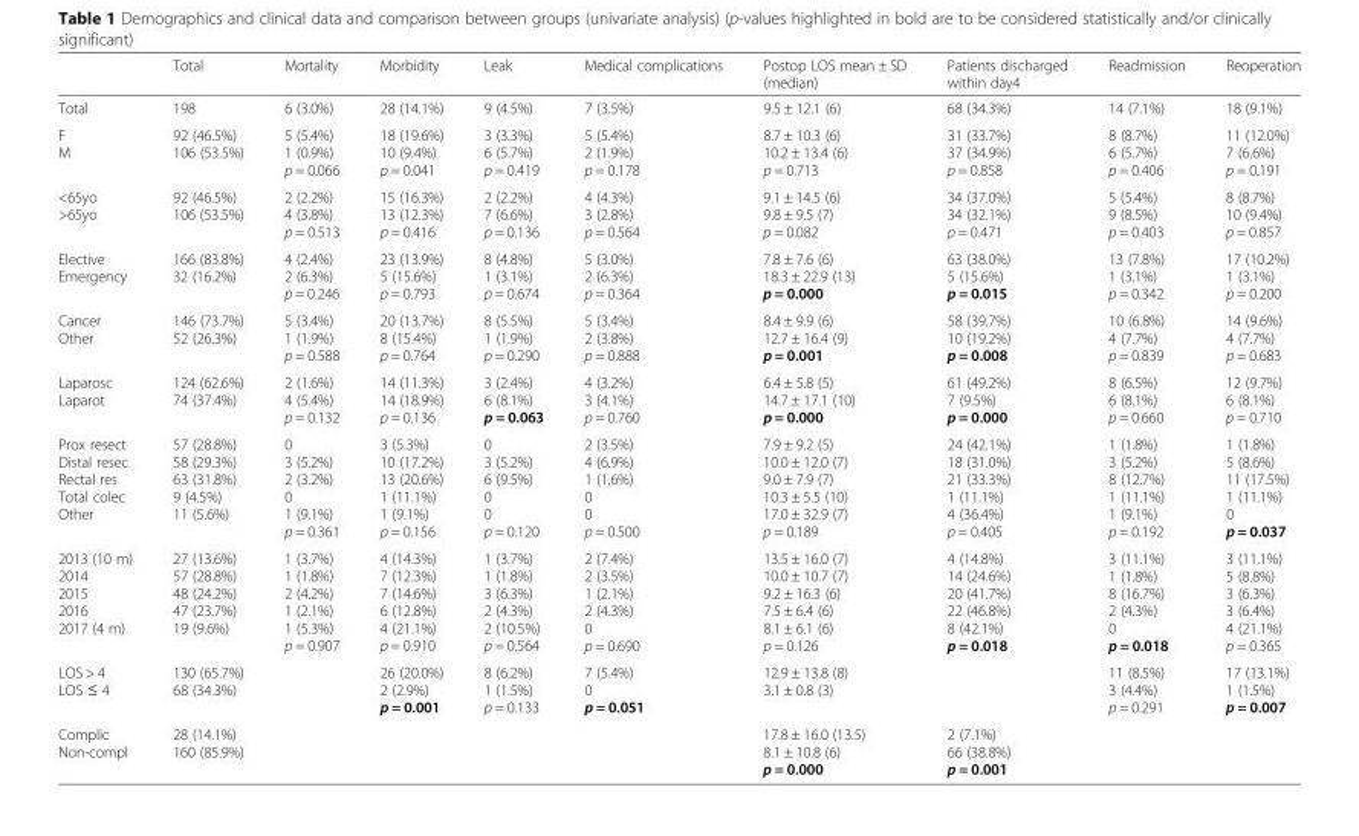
<table><thead><tr><td></td><td>Total</td><td>Mortality</td><td>Morbidity</td><td>Leak</td><td>Medical complications</td><td>Postop LOS mean ± SD (median)</td><td>Patients discharged within day4</td><td>Readmission</td><td>Reoperation</td></tr></thead><tbody><tr><td>Total</td><td>198</td><td>6 (3.0%)</td><td>28 (14.1%)</td><td>9 (4.5%)</td><td>7 (3.5%)</td><td>9.5 ± 12.1 (6)</td><td>68 (34.3%)</td><td>14 (7.1%)</td><td>18 (9.1%)</td></tr><tr><td>F M</td><td>92 (46.5%) 106 (53.5%)</td><td>5 (5.4%) 1 (0.9%) p = 0.066</td><td>18 (19.6%) 10 (9.4%) p = 0.041</td><td>3 (3.3%) 6 (5.7%) p = 0.419</td><td>5 (5.4%) 2 (1.9%) p = 0.178</td><td>8.7 ± 10.3 (6) 10.2 ± 13.4 (6) p = 0.713</td><td>31 (33.7%) 37 (34.9%) p = 0.858</td><td>8 (8.7%) 6 (5.7%) p = 0.406</td><td>11 (12.0%) 7 (6.6%) p = 0.191</td></tr><tr><td>&lt;65yo &gt;65yo</td><td>92 (46.5%) 106 (53.5%)</td><td>2 (2.2%) 4 (3.8%) p = 0.513</td><td>15 (16.3%) 13 (12.3%) p = 0.416</td><td>2 (2.2%) 7 (6.6%) p = 0.136</td><td>4 (4.3%) 3 (2.8%) p = 0.564</td><td>9.1 ± 14.5 (6) 9.8 ± 9.5 (7) p = 0.082</td><td>34 (37.0%) 34 (32.1%) p = 0.471</td><td>5 (5.4%) 9 (8.5%) p = 0.403</td><td>8 (8.7%) 10 (9.4%) p = 0.857</td></tr><tr><td>Elective Emergency</td><td>166 (83.8%) 32 (16.2%)</td><td>4 (2.4%) 2 (6.3%) p = 0.246</td><td>23 (13.9%) 5 (15.6%) p = 0.793</td><td>8 (4.8%) 1 (3.1%) p = 0.674</td><td>5 (3.0%) 2 (6.3%) p = 0.364</td><td>7.8 ± 7.6 (6) 18.3 ± 22.9 (13) p = 0.000</td><td>63 (38.0%) 5 (15.6%) p = 0.015</td><td>13 (7.8%) 1 (3.1%) p = 0.342</td><td>17 (10.2%) 1 (3.1%) p = 0.200</td></tr><tr><td>Cancer Other</td><td>146 (73.7%) 52 (26.3%)</td><td>5 (3.4%) 1 (1.9%) p = 0.588</td><td>20 (13.7%) 8 (15.4%) p = 0.764</td><td>8 (5.5%) 1 (1.9%) p = 0.290</td><td>5 (3.4%) 2 (3.8%) p = 0.888</td><td>8.4 ± 9.9 (6) 12.7 ± 16.4 (9) p = 0.001</td><td>58 (39.7%) 10 (19.2%) p = 0.008</td><td>10 (6.8%) 4 (7.7%) p = 0.839</td><td>14 (9.6%) 4 (7.7%) p = 0.683</td></tr><tr><td>Laparosc Laparot</td><td>124 (62.6%) 74 (37.4%)</td><td>2 (1.6%) 4 (5.4%) p = 0.132</td><td>14 (11.3%) 14 (18.9%) p = 0.136</td><td>3 (2.4%) 6 (8.1%) p = 0.063</td><td>4 (3.2%) 3 (4.1%) p = 0.760</td><td>6.4 ± 5.8 (5) 14.7 ± 17.1 (10) p = 0.000</td><td>61 (49.2%) 7 (9.5%) p = 0.000</td><td>8 (6.5%) 6 (8.1%) p = 0.660</td><td>12 (9.7%) 6 (8.1%) p = 0.710</td></tr><tr><td>Prox resect Distal resec Rectal res Total colec Other</td><td>57 (28.8%) 58 (29.3%) 63 (31.8%) 9 (4.5%) 11 (5.6%)</td><td>0 3 (5.2%) 2 (3.2%) 0 1 (9.1%) p = 0.361</td><td>3 (5.3%) 10 (17.2%) 13 (20.6%) 1 (11.1%) 1 (9.1%) p = 0.156</td><td>0 3 (5.2%) 6 (9.5%) 0 0 p = 0.120</td><td>2 (3.5%) 4 (6.9%) 1 (1.6%) 0 0 p = 0.500</td><td>7.9 ± 9.2 (5) 10.0 ± 12.0 (7) 9.0 ± 7.9 (7) 10.3 ± 5.5 (10) 17.0 ± 32.9 (7) p = 0.189</td><td>24 (42.1%) 18 (31.0%) 21 (33.3%) 1 (11.1%) 4 (36.4%) p = 0.405</td><td>1 (1.8%) 3 (5.2%) 8 (12.7%) 1 (11.1%) 1 (9.1%) p = 0.192</td><td>1 (1.8%) 5 (8.6%) 11 (17.5%) 1 (11.1%) 0 p = 0.037</td></tr><tr><td>2013 (10 m) 2014 2015 2016 2017 (4 m)</td><td>27 (13.6%) 57 (28.8%) 48 (24.2%) 47 (23.7%) 19 (9.6%)</td><td>1 (3.7%) 1 (1.8%) 2 (4.2%) 1 (2.1%) 1 (5.3%) p = 0.907</td><td>4 (14.3%) 7 (12.3%) 7 (14.6%) 6 (12.8%) 4 (21.1%) p = 0.910</td><td>1 (3.7%) 1 (1.8%) 3 (6.3%) 2 (4.3%) 2 (10.5%) p = 0.564</td><td>2 (7.4%) 2 (3.5%) 1 (2.1%) 2 (4.3%) 0 p = 0.690</td><td>13.5 ± 16.0 (7) 10.0 ± 10.7 (7) 9.2 ± 16.3 (6) 7.5 ± 6.4 (6) 8.1 ± 6.1 (6) p = 0.126</td><td>4 (14.8%) 14 (24.6%) 20 (41.7%) 22 (46.8%) 8 (42.1%) p = 0.018</td><td>3 (11.1%) 1 (1.8%) 8 (16.7%) 2 (4.3%) 0 p = 0.018</td><td>3 (11.1%) 5 (8.8%) 3 (6.3%) 3 (6.4%) 4 (21.1%) p = 0.365</td></tr><tr><td>LOS &gt; 4 LOS ≤ 4</td><td>130 (65.7%) 68 (34.3%)</td><td></td><td>26 (20.0%) 2 (2.9%) p = 0.001</td><td>8 (6.2%) 1 (1.5%) p = 0.133</td><td>7 (5.4%) 0 p = 0.051</td><td>12.9 ± 13.8 (8) 3.1 ± 0.8 (3)</td><td></td><td>11 (8.5%) 3 (4.4%) p = 0.291</td><td>17 (13.1%) 1 (1.5%) p = 0.007</td></tr><tr><td>Complic Non-compl</td><td>28 (14.1%) 160 (85.9%)</td><td></td><td></td><td></td><td></td><td>17.8 ± 16.0 (13.5) 8.1 ± 10.8 (6) p = 0.000</td><td>2 (7.1%) 66 (38.8%) p = 0.001</td><td></td><td></td></tr></tbody></table>